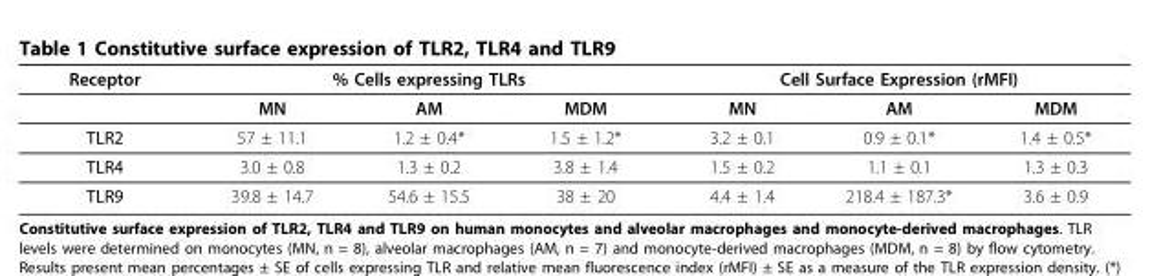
<table><thead><tr><td rowspan="2">Receptor</td><td colspan="3">% Cells expressing TLRs</td><td colspan="3">Cell Surface Expression (rMFI)</td></tr><tr><td>MN</td><td>AM</td><td>MDM</td><td>MN</td><td>AM</td><td>MDM</td></tr></thead><tbody><tr><td>TLR2</td><td>57 ± 11.1</td><td>1.2 ± 0.4*</td><td>1.5 ± 1.2*</td><td>3.2 ± 0.1</td><td>0.9 ± 0.1*</td><td>1.4 ± 0.5*</td></tr><tr><td>TLR4</td><td>3.0 ± 0.8</td><td>1.3 ± 0.2</td><td>3.8 ± 1.4</td><td>1.5 ± 0.2</td><td>1.1 ± 0.1</td><td>1.3 ± 0.3</td></tr><tr><td>TLR9</td><td>39.8 ± 14.7</td><td>54.6 ± 15.5</td><td>38 ± 20</td><td>4.4 ± 1.4</td><td>218.4 ± 187.3*</td><td>3.6 ± 0.9</td></tr></tbody></table>